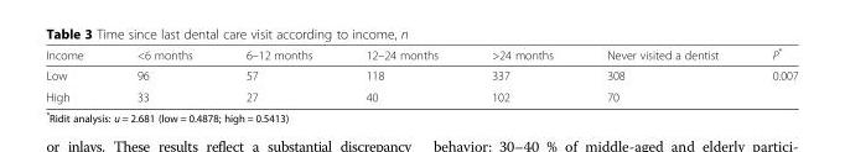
<table><thead><tr><td>Income</td><td>&lt;6 months</td><td>6–12 months</td><td>12–24 months</td><td>&gt;24 months</td><td>Never visited a dentist</td><td>P*</td></tr></thead><tbody><tr><td>Low</td><td>96</td><td>57</td><td>118</td><td>337</td><td>308</td><td rowspan="2">0.007</td></tr><tr><td>High</td><td>33</td><td>27</td><td>40</td><td>102</td><td>70</td></tr></tbody></table>